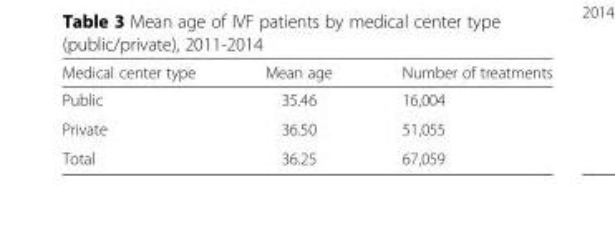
<table><thead><tr><td>Medical center type</td><td>Mean age</td><td>Number of treatments</td></tr></thead><tbody><tr><td>Public</td><td>35.46</td><td>16,004</td></tr><tr><td>Private</td><td>36.50</td><td>51,055</td></tr><tr><td>Total</td><td>36.25</td><td>67,059</td></tr></tbody></table>